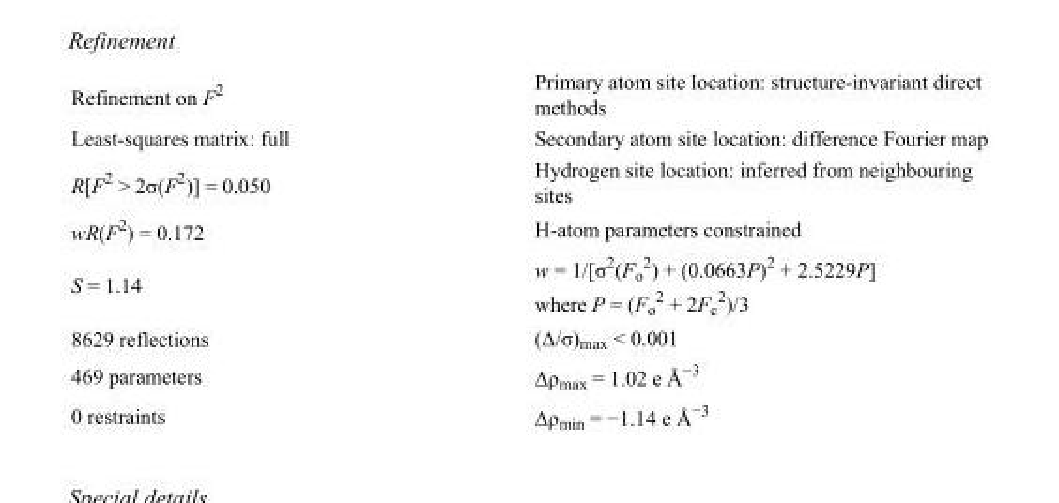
<table><tbody><tr><td>Refinement on F<sup>2</sup></td><td>Primary atom site location: structure-invariant direct methods</td></tr><tr><td>Least-squares matrix: full</td><td>Secondary atom site location: difference Fourier map</td></tr><tr><td>R[F<sup>2</sup> &gt; 2σ(F<sup>2</sup>)] = 0.050</td><td>Hydrogen site location: inferred from neighbouring sites</td></tr><tr><td>wR(F<sup>2</sup>) = 0.172</td><td>H-atom parameters constrained</td></tr><tr><td>S = 1.14</td><td>w = 1/[σ<sup>2</sup>(F<sub>o</sub> <sup>2</sup>) + (0.0663P)<sup>2</sup> + 2.5229P] where P = (F<sub>o</sub> <sup>2</sup> + 2F<sub>c</sub> <sup>2</sup>)/3</td></tr><tr><td>8629 reflections</td><td>(Δ/σ)<sub>max</sub> &lt; 0.001</td></tr><tr><td>469 parameters</td><td>Δρ<sub>max</sub> = 1.02 e Å<sup>−3</sup></td></tr><tr><td>0 restraints</td><td>Δρ<sub>min</sub> = −1.14 e Å<sup>−3</sup></td></tr></tbody></table>